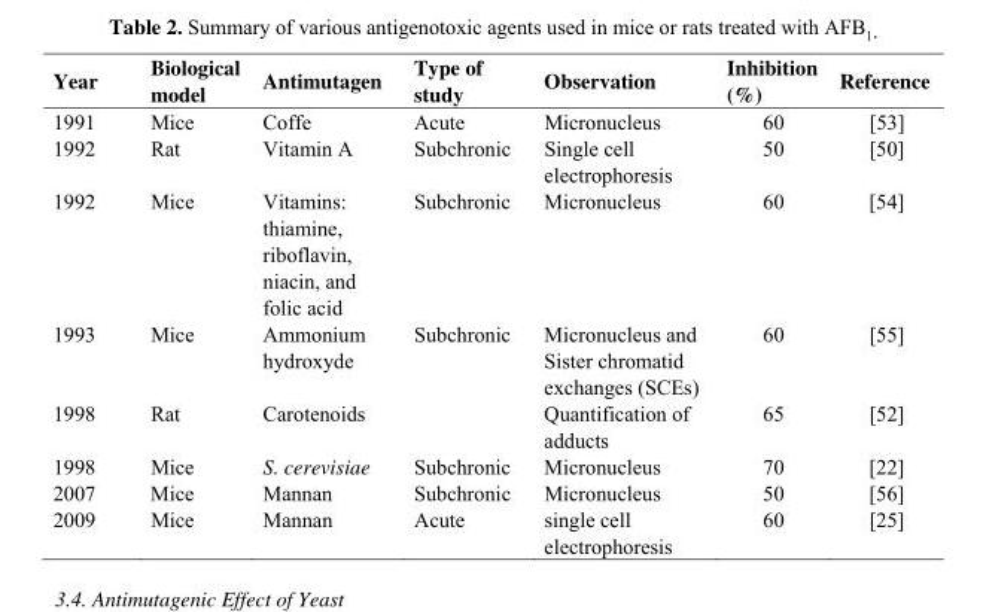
<table><thead><tr><td>Year</td><td>Biological model</td><td>Antimutagen</td><td>Type of study</td><td>Observation</td><td>Inhibition (%)</td><td>Reference</td></tr></thead><tbody><tr><td>1991</td><td>Mice</td><td>Coffe</td><td>Acute</td><td>Micronucleus</td><td>60</td><td>[53]</td></tr><tr><td>1992</td><td>Rat</td><td>Vitamin A</td><td>Subchronic</td><td>Single cell electrophoresis</td><td>50</td><td>[50]</td></tr><tr><td>1992</td><td>Mice</td><td>Vitamins: thiamine, riboflavin, niacin, and folic acid</td><td>Subchronic</td><td>Micronucleus</td><td>60</td><td>[54]</td></tr><tr><td>1993</td><td>Mice</td><td>Ammonium hydroxyde</td><td>Subchronic</td><td>Micronucleus and Sister chromatid exchanges (SCEs)</td><td>60</td><td>[55]</td></tr><tr><td>1998</td><td>Rat</td><td>Carotenoids</td><td></td><td>Quantification of adducts</td><td>65</td><td>[52]</td></tr><tr><td>1998</td><td>Mice</td><td>S. cerevisiae</td><td>Subchronic</td><td>Micronucleus</td><td>70</td><td>[22]</td></tr><tr><td>2007</td><td>Mice</td><td>Mannan</td><td>Subchronic</td><td>Micronucleus</td><td>50</td><td>[56]</td></tr><tr><td>2009</td><td>Mice</td><td>Mannan</td><td>Acute</td><td>single cell electrophoresis</td><td>60</td><td>[25]</td></tr></tbody></table>